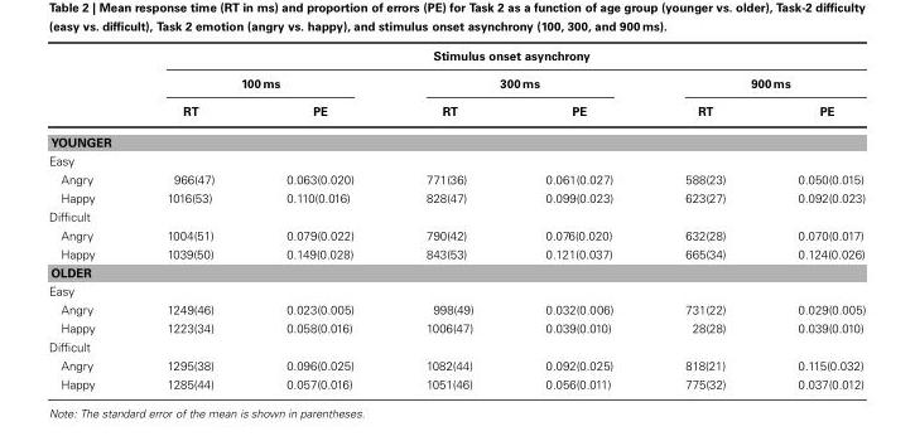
<table><thead><tr><td rowspan="3"></td><td colspan="6">Stimulus onset asynchrony</td></tr><tr><td colspan="2">100 ms</td><td colspan="2">300 ms</td><td colspan="2">900ms</td></tr><tr><td>RT</td><td>PE</td><td>RT</td><td>PE</td><td>RT</td><td>PE</td></tr></thead><tbody><tr><td colspan="7">YOUNGER</td></tr><tr><td colspan="7">Easy</td></tr><tr><td>Angry</td><td>966(47)</td><td>0.063(0.020)</td><td>771(36)</td><td>0.061(0.027)</td><td>588(23)</td><td>0.050(0.015)</td></tr><tr><td>Happy</td><td>1016(53)</td><td>0.110(0.016)</td><td>828(47)</td><td>0.099(0.023)</td><td>623(27)</td><td>0.092(0.023)</td></tr><tr><td colspan="7">Difficult</td></tr><tr><td>Angry</td><td>1004(51)</td><td>0.079(0.022)</td><td>790(42)</td><td>0.076(0.020)</td><td>632(28)</td><td>0.070(0.017)</td></tr><tr><td>Happy</td><td>1039(50)</td><td>0.149(0.028)</td><td>843(53)</td><td>0.121(0.037)</td><td>665(34)</td><td>0.124(0.026)</td></tr><tr><td colspan="7">OLDER</td></tr><tr><td colspan="7">Easy</td></tr><tr><td>Angry</td><td>1249(46)</td><td>0.023(0.005)</td><td>998(49)</td><td>0.032(0.006)</td><td>731(22)</td><td>0.029(0.005)</td></tr><tr><td>Happy</td><td>1223(34)</td><td>0.058(0.016)</td><td>1006(47)</td><td>0.039(0.010)</td><td>28(28)</td><td>0.039(0.010)</td></tr><tr><td colspan="7">Difficult</td></tr><tr><td>Angry</td><td>1295(38)</td><td>0.096(0.025)</td><td>1082(44)</td><td>0.092(0.025)</td><td>818(21)</td><td>0.115(0.032)</td></tr><tr><td>Happy</td><td>1285(44)</td><td>0.057(0.016)</td><td>1051(46)</td><td>0.056(0.011)</td><td>775(32)</td><td>0.037(0.012)</td></tr></tbody></table>